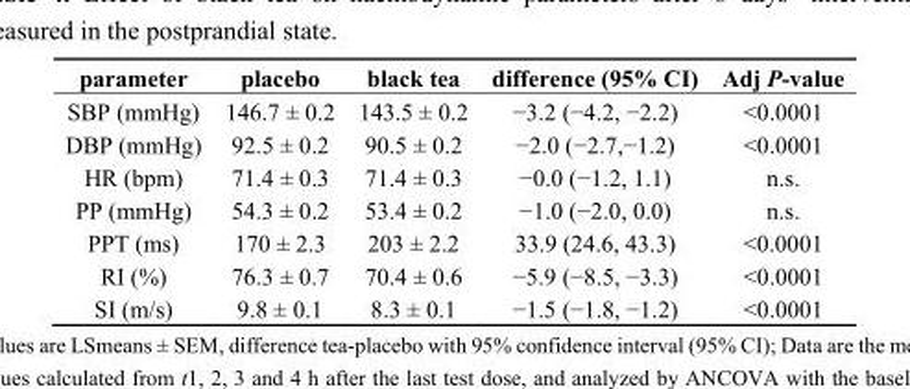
<table><thead><tr><td>parameter</td><td>placebo</td><td>black tea</td><td>difference (95% CI)</td><td>Adj P-value</td></tr></thead><tbody><tr><td>SBP (mmHg)</td><td>146.7 ± 0.2</td><td>143.5 ± 0.2</td><td>−3.2 (−4.2, −2.2)</td><td>&lt;0.0001</td></tr><tr><td>DBP (mmHg)</td><td>92.5 ± 0.2</td><td>90.5 ± 0.2</td><td>−2.0 (−2.7,−1.2)</td><td>&lt;0.0001</td></tr><tr><td>HR (bpm)</td><td>71.4 ± 0.3</td><td>71.4 ± 0.3</td><td>−0.0 (−1.2, 1.1)</td><td>n.s.</td></tr><tr><td>PP (mmHg)</td><td>54.3 ± 0.2</td><td>53.4 ± 0.2</td><td>−1.0 (−2.0, 0.0)</td><td>n.s.</td></tr><tr><td>PPT (ms)</td><td>170 ± 2.3</td><td>203 ± 2.2</td><td>33.9 (24.6, 43.3)</td><td>&lt;0.0001</td></tr><tr><td>RI (%)</td><td>76.3 ± 0.7</td><td>70.4 ± 0.6</td><td>−5.9 (−8.5, −3.3)</td><td>&lt;0.0001</td></tr><tr><td>SI (m/s)</td><td>9.8 ± 0.1</td><td>8.3 ± 0.1</td><td>−1.5 (−1.8, −1.2)</td><td>&lt;0.0001</td></tr></tbody></table>